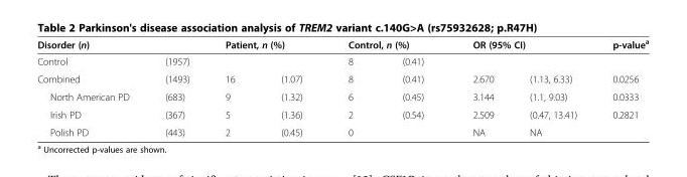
<table><thead><tr><td colspan="2">Disorder (n)</td><td colspan="2">Patient, n (%)</td><td colspan="2">Control, n (%)</td><td colspan="2">OR (95% CI)</td><td rowspan="2">p-value<sup>a</sup></td></tr><tr><td>Control</td><td>(1957)</td><td></td><td></td><td>8</td><td>(0.41)</td><td></td><td></td></tr></thead><tbody><tr><td>Combined</td><td>(1493)</td><td>16</td><td>(1.07)</td><td>8</td><td>(0.41)</td><td>2.670</td><td>(1.13, 6.33)</td><td>0.0256</td></tr><tr><td>North American PD</td><td>(683)</td><td>9</td><td>(1.32)</td><td>6</td><td>(0.45)</td><td>3.144</td><td>(1.1, 9.03)</td><td>0.0333</td></tr><tr><td>Irish PD</td><td>(367)</td><td>5</td><td>(1.36)</td><td>2</td><td>(0.54)</td><td>2.509</td><td>(0.47, 13.41)</td><td>0.2821</td></tr><tr><td>Polish PD</td><td>(443)</td><td>2</td><td>(0.45)</td><td>0</td><td></td><td>NA</td><td>NA</td><td></td></tr></tbody></table>